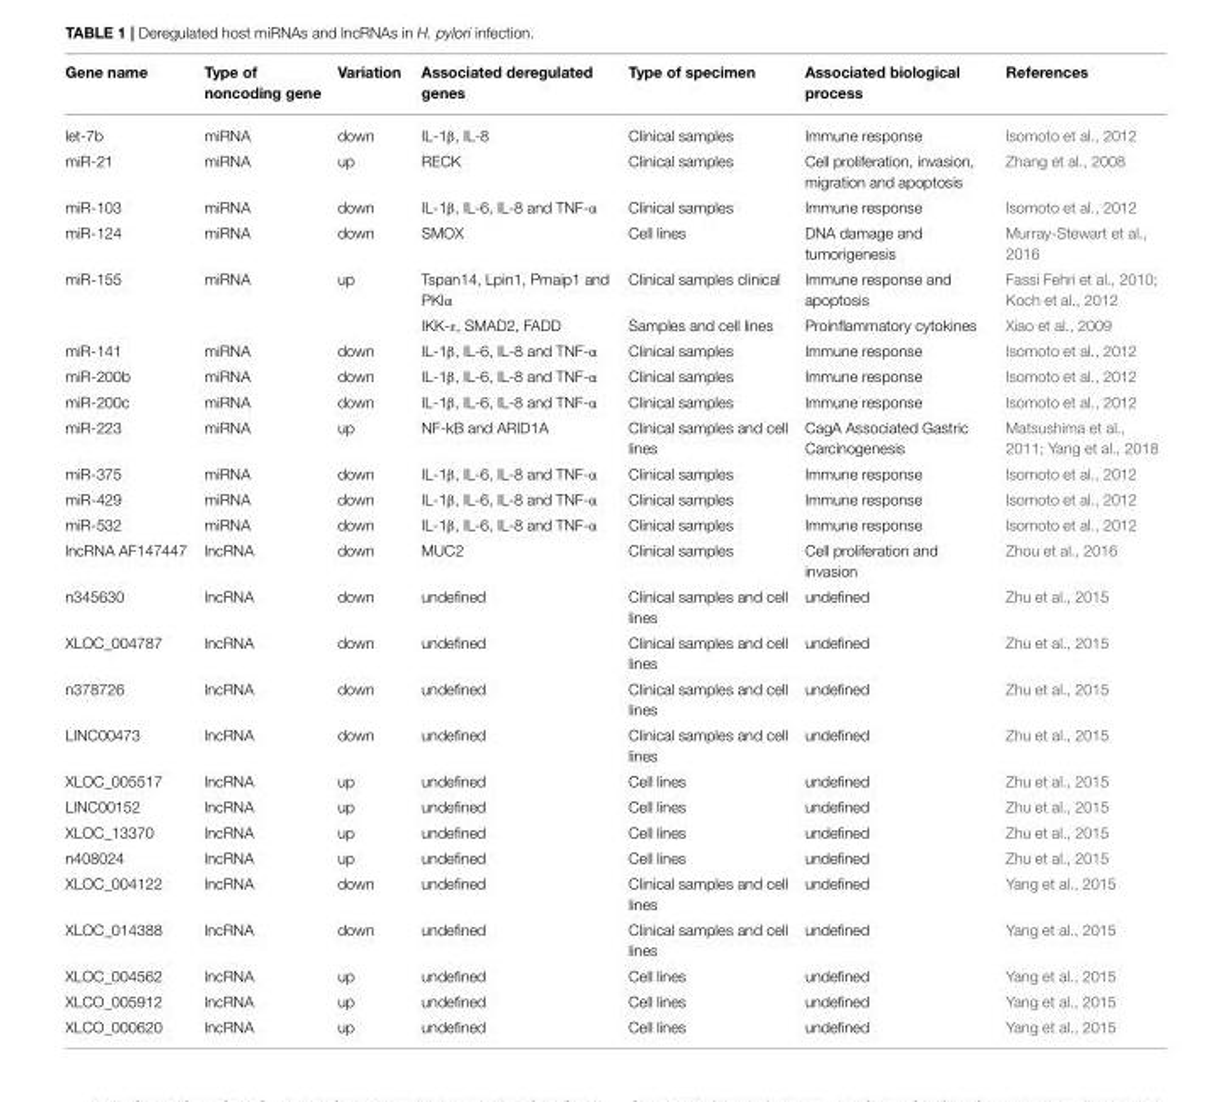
<table><thead><tr><td>Gene name</td><td>Type of noncoding gene</td><td>Variation</td><td>Associated deregulated genes</td><td>Type of specimen</td><td>Associated biological process</td><td>References</td></tr></thead><tbody><tr><td>let-7b</td><td>miRNA</td><td>down</td><td>IL-1β, IL-8</td><td>Clinical samples</td><td>Immune response</td><td>Isomoto et al., 2012</td></tr><tr><td>miR-21</td><td>miRNA</td><td>up</td><td>RECK</td><td>Clinical samples</td><td>Cell proliferation, invasion, migration and apoptosis</td><td>Zhang et al., 2008</td></tr><tr><td>miR-103</td><td>miRNA</td><td>down</td><td>IL-1β, IL-6, IL-8 and TNF-α</td><td>Clinical samples</td><td>Immune response</td><td>Isomoto et al., 2012</td></tr><tr><td>miR-124</td><td>miRNA</td><td>down</td><td>SMOX</td><td>Cell lines</td><td>DNA damage and tumorigenesis</td><td>Murray-Stewart et al., 2016</td></tr><tr><td rowspan="2">miR-155</td><td>miRNA</td><td>up</td><td>Tspan14, Lpin1, Pmaip1 and PKIα</td><td>Clinical samples clinical</td><td>Immune response and apoptosis</td><td>Fassi Fehri et al., 2010; Koch et al., 2012</td></tr><tr><td></td><td></td><td>IKK-ε, SMAD2, FADD</td><td>Samples and cell lines</td><td>Proinflammatory cytokines</td><td>Xiao et al., 2009</td></tr><tr><td>miR-141</td><td>miRNA</td><td>down</td><td>IL-1β, IL-6, IL-8 and TNF-α</td><td>Clinical samples</td><td>Immune response</td><td>Isomoto et al., 2012</td></tr><tr><td>miR-200b</td><td>miRNA</td><td>down</td><td>IL-1β, IL-6, IL-8 and TNF-α</td><td>Clinical samples</td><td>Immune response</td><td>Isomoto et al., 2012</td></tr><tr><td>miR-200c</td><td>miRNA</td><td>down</td><td>IL-1β, IL-6, IL-8 and TNF-α</td><td>Clinical samples</td><td>Immune response</td><td>Isomoto et al., 2012</td></tr><tr><td>miR-223</td><td>miRNA</td><td>up</td><td>NF-kB and ARID1A</td><td>Clinical samples and cell lines</td><td>CagA Associated Gastric Carcinogenesis</td><td>Matsushima et al., 2011; Yang et al., 2018</td></tr><tr><td>miR-375</td><td>miRNA</td><td>down</td><td>IL-1β, IL-6, IL-8 and TNF-α</td><td>Clinical samples</td><td>Immune response</td><td>Isomoto et al., 2012</td></tr><tr><td>miR-429</td><td>miRNA</td><td>down</td><td>IL-1β, IL-6, IL-8 and TNF-α</td><td>Clinical samples</td><td>Immune response</td><td>Isomoto et al., 2012</td></tr><tr><td>miR-532</td><td>miRNA</td><td>down</td><td>IL-1β, IL-6, IL-8 and TNF-α</td><td>Clinical samples</td><td>Immune response</td><td>Isomoto et al., 2012</td></tr><tr><td>lncRNA AF147447</td><td>lncRNA</td><td>down</td><td>MUC2</td><td>Clinical samples</td><td>Cell proliferation and invasion</td><td>Zhou et al., 2016</td></tr><tr><td>n345630</td><td>lncRNA</td><td>down</td><td>undefined</td><td>Clinical samples and cell lines</td><td>undefined</td><td>Zhu et al., 2015</td></tr><tr><td>XLOC_004787</td><td>lncRNA</td><td>down</td><td>undefined</td><td>Clinical samples and cell lines</td><td>undefined</td><td>Zhu et al., 2015</td></tr><tr><td>n378726</td><td>lncRNA</td><td>down</td><td>undefined</td><td>Clinical samples and cell lines</td><td>undefined</td><td>Zhu et al., 2015</td></tr><tr><td>LINC00473</td><td>lncRNA</td><td>down</td><td>undefined</td><td>Clinical samples and cell lines</td><td>undefined</td><td>Zhu et al., 2015</td></tr><tr><td>XLOC_005517</td><td>lncRNA</td><td>up</td><td>undefined</td><td>Cell lines</td><td>undefined</td><td>Zhu et al., 2015</td></tr><tr><td>LINC00152</td><td>lncRNA</td><td>up</td><td>undefined</td><td>Cell lines</td><td>undefined</td><td>Zhu et al., 2015</td></tr><tr><td>XLOC_13370</td><td>lncRNA</td><td>up</td><td>undefined</td><td>Cell lines</td><td>undefined</td><td>Zhu et al., 2015</td></tr><tr><td>n408024</td><td>lncRNA</td><td>up</td><td>undefined</td><td>Cell lines</td><td>undefined</td><td>Zhu et al., 2015</td></tr><tr><td>XLOC_004122</td><td>lncRNA</td><td>down</td><td>undefined</td><td>Clinical samples and cell lines</td><td>undefined</td><td>Yang et al., 2015</td></tr><tr><td>XLOC_014388</td><td>lncRNA</td><td>down</td><td>undefined</td><td>Clinical samples and cell lines</td><td>undefined</td><td>Yang et al., 2015</td></tr><tr><td>XLOC_004562</td><td>lncRNA</td><td>up</td><td>undefined</td><td>Cell lines</td><td>undefined</td><td>Yang et al., 2015</td></tr><tr><td>XLCO_005912</td><td>lncRNA</td><td>up</td><td>undefined</td><td>Cell lines</td><td>undefined</td><td>Yang et al., 2015</td></tr><tr><td>XLCO_000620</td><td>lncRNA</td><td>up</td><td>undefined</td><td>Cell lines</td><td>undefined</td><td>Yang et al., 2015</td></tr></tbody></table>